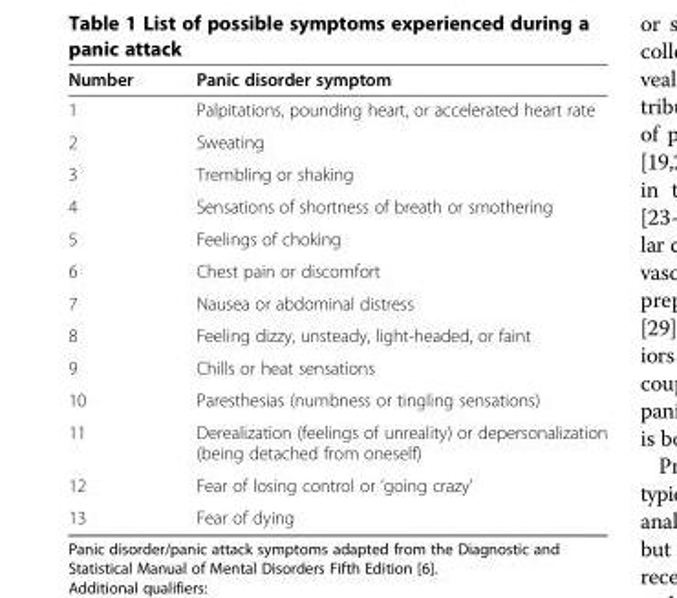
<table><thead><tr><td>Number</td><td>Panic disorder symptom</td></tr></thead><tbody><tr><td>1</td><td>Palpitations, pounding heart, or accelerated heart rate</td></tr><tr><td>2</td><td>Sweating</td></tr><tr><td>3</td><td>Trembling or shaking</td></tr><tr><td>4</td><td>Sensations of shortness of breath or smothering</td></tr><tr><td>5</td><td>Feelings of choking</td></tr><tr><td>6</td><td>Chest pain or discomfort</td></tr><tr><td>7</td><td>Nausea or abdominal distress</td></tr><tr><td>8</td><td>Feeling dizzy, unsteady, light-headed, or faint</td></tr><tr><td>9</td><td>Chills or heat sensations</td></tr><tr><td>10</td><td>Paresthesias (numbness or tingling sensations)</td></tr><tr><td>11</td><td>Derealization (feelings of unreality) or depersonalization (being detached from oneself)</td></tr><tr><td>12</td><td>Fear of losing control or ‘going crazy’</td></tr><tr><td>13</td><td>Fear of dying</td></tr></tbody></table>